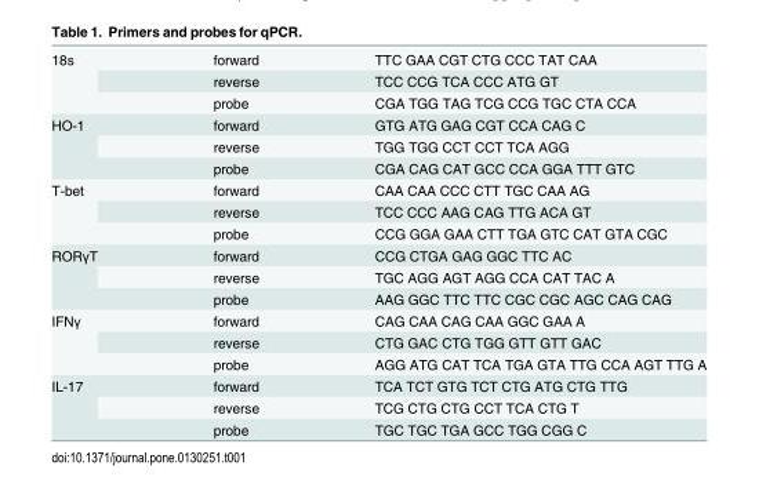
<table><tbody><tr><td rowspan="3">18s</td><td>forward</td><td>TTC GAA CGT CTG CCC TAT CAA</td></tr><tr><td>reverse</td><td>TCC CCG TCA CCC ATG GT</td></tr><tr><td>probe</td><td>CGA TGG TAG TCG CCG TGC CTA CCA</td></tr><tr><td rowspan="3">HO-1</td><td>forward</td><td>GTG ATG GAG CGT CCA CAG C</td></tr><tr><td>reverse</td><td>TGG TGG CCT CCT TCA AGG</td></tr><tr><td>probe</td><td>CGA CAG CAT GCC CCA GGA TTT GTC</td></tr><tr><td rowspan="3">T-bet</td><td>forward</td><td>CAA CAA CCC CTT TGC CAA AG</td></tr><tr><td>reverse</td><td>TCC CCC AAG CAG TTG ACA GT</td></tr><tr><td>probe</td><td>CCG GGA GAA CTT TGA GTC CAT GTA CGC</td></tr><tr><td rowspan="3">RORγT</td><td>forward</td><td>CCG CTGA GAG GGC TTC AC</td></tr><tr><td>reverse</td><td>TGC AGG AGT AGG CCA CAT TAC A</td></tr><tr><td>probe</td><td>AAG GGC TTC TTC CGC CGC AGC CAG CAG</td></tr><tr><td rowspan="3">IFNγ</td><td>forward</td><td>CAG CAA CAG CAA GGC GAA A</td></tr><tr><td>reverse</td><td>CTG GAC CTG TGG GTT GTT GAC</td></tr><tr><td>probe</td><td>AGG ATG CAT TCA TGA GTA TTG CCA AGT TTG A</td></tr><tr><td rowspan="3">IL-17</td><td>forward</td><td>TCA TCT GTG TCT CTG ATG CTG TTG</td></tr><tr><td>reverse</td><td>TCG CTG CTG CCT TCA CTG T</td></tr><tr><td>probe</td><td>TGC TGC TGA GCC TGG CGG C</td></tr></tbody></table>